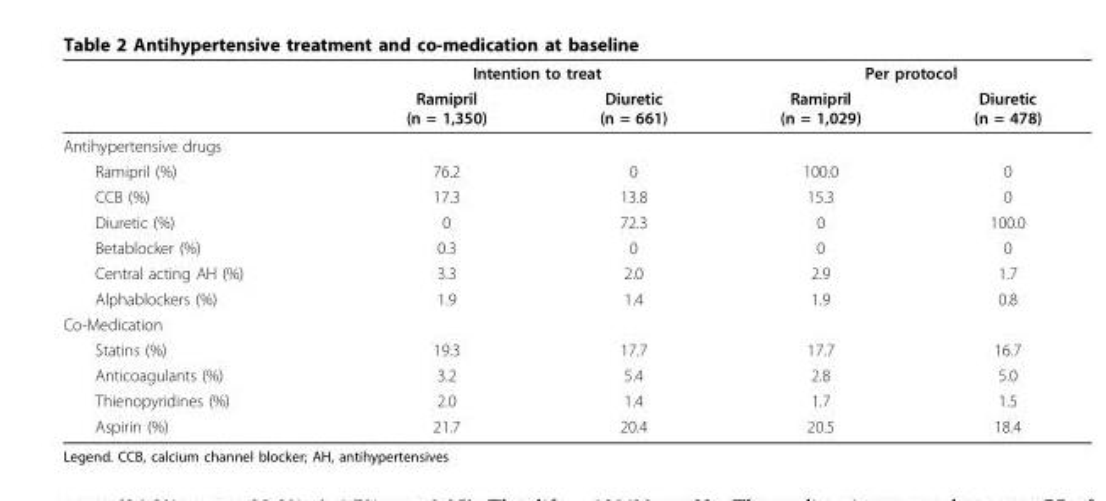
<table><thead><tr><td rowspan="2"></td><td colspan="2">Intention to treat</td><td colspan="2">Per protocol</td></tr><tr><td>Ramipril (n = 1,350)</td><td>Diuretic (n = 661)</td><td>Ramipril (n = 1,029)</td><td>Diuretic (n = 478)</td></tr></thead><tbody><tr><td colspan="5">Antihypertensive drugs</td></tr><tr><td>Ramipril (%)</td><td>76.2</td><td>0</td><td>100.0</td><td>0</td></tr><tr><td>CCB (%)</td><td>17.3</td><td>13.8</td><td>15.3</td><td>0</td></tr><tr><td>Diuretic (%)</td><td>0</td><td>72.3</td><td>0</td><td>100.0</td></tr><tr><td>Betablocker (%)</td><td>0.3</td><td>0</td><td>0</td><td>0</td></tr><tr><td>Central acting AH (%)</td><td>3.3</td><td>2.0</td><td>2.9</td><td>1.7</td></tr><tr><td>Alphablockers (%)</td><td>1.9</td><td>1.4</td><td>1.9</td><td>0.8</td></tr><tr><td colspan="5">Co-Medication</td></tr><tr><td>Statins (%)</td><td>19.3</td><td>17.7</td><td>17.7</td><td>16.7</td></tr><tr><td>Anticoagulants (%)</td><td>3.2</td><td>5.4</td><td>2.8</td><td>5.0</td></tr><tr><td>Thienopyridines (%)</td><td>2.0</td><td>1.4</td><td>1.7</td><td>1.5</td></tr><tr><td>Aspirin (%)</td><td>21.7</td><td>20.4</td><td>20.5</td><td>18.4</td></tr></tbody></table>